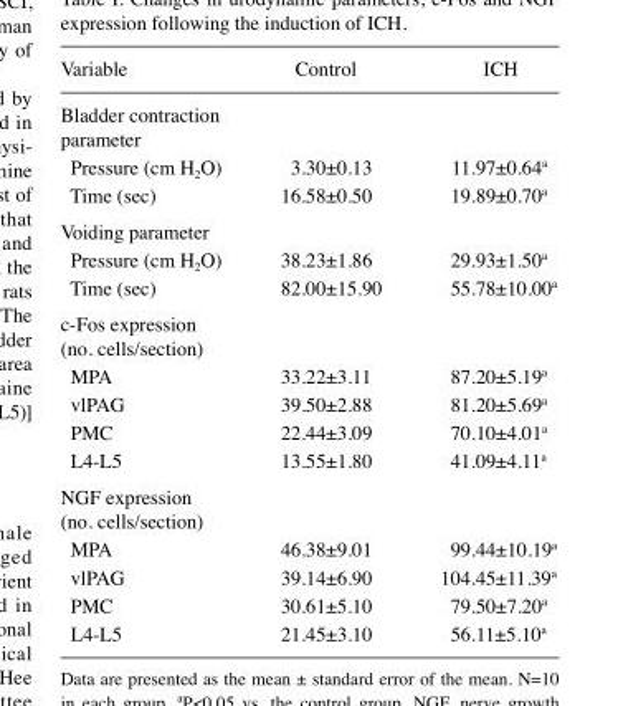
<table><thead><tr><td>Variable</td><td>Control</td><td>ICH</td></tr></thead><tbody><tr><td colspan="3">Bladder contraction parameter</td></tr><tr><td>Pressure (cm H<sub>2</sub>O)</td><td>3.30±0.13</td><td>11.97±0.64<sup>a</sup></td></tr><tr><td>Time (sec)</td><td>16.58±0.50</td><td>19.89±0.70<sup>a</sup></td></tr><tr><td colspan="3">Voiding parameter</td></tr><tr><td>Pressure (cm H<sub>2</sub>O)</td><td>38.23±1.86</td><td>29.93±1.50<sup>a</sup></td></tr><tr><td>Time (sec)</td><td>82.00±15.90</td><td>55.78±10.00<sup>a</sup></td></tr><tr><td colspan="3">c-Fos expression (no. cells/section)</td></tr><tr><td>MPA</td><td>33.22±3.11</td><td>87.20±5.19<sup>a</sup></td></tr><tr><td>vlPAG</td><td>39.50±2.88</td><td>81.20±5.69<sup>a</sup></td></tr><tr><td>PMC</td><td>22.44±3.09</td><td>70.10±4.01<sup>a</sup></td></tr><tr><td>L4‑L5</td><td>13.55±1.80</td><td>41.09±4.11<sup>a</sup></td></tr><tr><td colspan="3">NGF expression (no. cells/section)</td></tr><tr><td>MPA</td><td>46.38±9.01</td><td>99.44±10.19<sup>a</sup></td></tr><tr><td>vlPAG</td><td>39.14±6.90</td><td>104.45±11.39<sup>a</sup></td></tr><tr><td>PMC</td><td>30.61±5.10</td><td>79.50±7.20<sup>a</sup></td></tr><tr><td>L4-L5</td><td>21.45±3.10</td><td>56.11±5.10<sup>a</sup></td></tr></tbody></table>